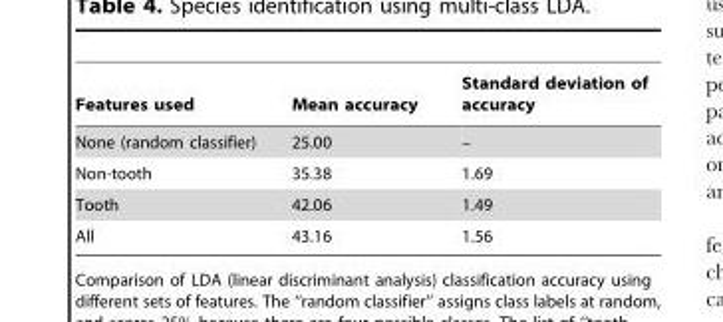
<table><thead><tr><td>Features used</td><td>Mean accuracy</td><td>Standard deviation of accuracy</td></tr></thead><tbody><tr><td>None (random classifier)</td><td>25.00</td><td>–</td></tr><tr><td>Non-tooth</td><td>35.38</td><td>1.69</td></tr><tr><td>Tooth</td><td>42.06</td><td>1.49</td></tr><tr><td>All</td><td>43.16</td><td>1.56</td></tr></tbody></table>